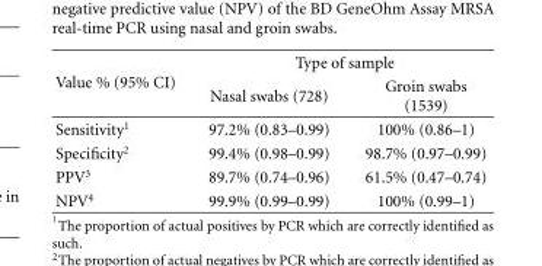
<table><thead><tr><td rowspan="2">Value % (95% CI)</td><td colspan="2">Type of sample</td></tr><tr><td>Nasal swabs (728)</td><td>Groin swabs (1539)</td></tr></thead><tbody><tr><td>Sensitivity<sup>1</sup></td><td>97.2% (0.83–0.99)</td><td>100% (0.86–1)</td></tr><tr><td>Specificity<sup>2</sup></td><td>99.4% (0.98–0.99)</td><td>98.7% (0.97–0.99)</td></tr><tr><td>PPV<sup>3</sup></td><td>89.7% (0.74–0.96)</td><td>61.5% (0.47–0.74)</td></tr><tr><td>NPV<sup>4</sup></td><td>99.9% (0.99–0.99)</td><td>100% (0.99–1)</td></tr></tbody></table>